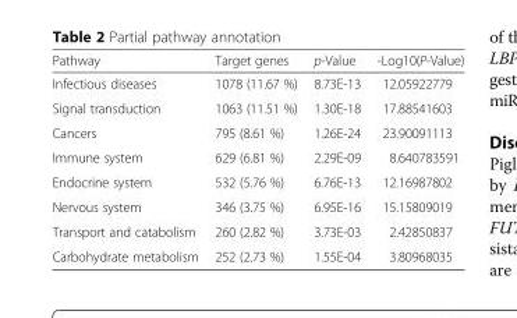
<table><thead><tr><td>Pathway</td><td>Target genes</td><td>p-Value</td><td>-Log10(P-Value)</td></tr></thead><tbody><tr><td>Infectious diseases</td><td>1078 (11.67 %)</td><td>8.73E-13</td><td>12.05922779</td></tr><tr><td>Signal transduction</td><td>1063 (11.51 %)</td><td>1.30E-18</td><td>17.88541603</td></tr><tr><td>Cancers</td><td>795 (8.61 %)</td><td>1.26E-24</td><td>23.90091113</td></tr><tr><td>Immune system</td><td>629 (6.81 %)</td><td>2.29E-09</td><td>8.640783591</td></tr><tr><td>Endocrine system</td><td>532 (5.76 %)</td><td>6.76E-13</td><td>12.16987802</td></tr><tr><td>Nervous system</td><td>346 (3.75 %)</td><td>6.95E-16</td><td>15.15809019</td></tr><tr><td>Transport and catabolism</td><td>260 (2.82 %)</td><td>3.73E-03</td><td>2.42850837</td></tr><tr><td>Carbohydrate metabolism</td><td>252 (2.73 %)</td><td>1.55E-04</td><td>3.80968035</td></tr></tbody></table>